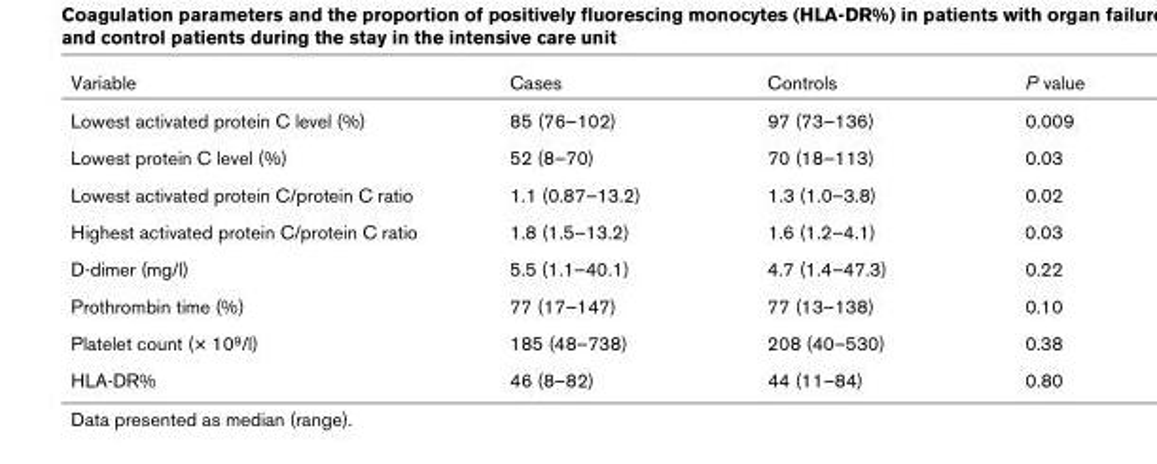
<table><thead><tr><td>Variable</td><td>Cases</td><td>Controls</td><td>P value</td></tr></thead><tbody><tr><td>Lowest activated protein C level (%)</td><td>85 (76–102)</td><td>97 (73–136)</td><td>0.009</td></tr><tr><td>Lowest protein C level (%)</td><td>52 (8–70)</td><td>70 (18–113)</td><td>0.03</td></tr><tr><td>Lowest activated protein C/protein C ratio</td><td>1.1 (0.87–13.2)</td><td>1.3 (1.0–3.8)</td><td>0.02</td></tr><tr><td>Highest activated protein C/protein C ratio</td><td>1.8 (1.5–13.2)</td><td>1.6 (1.2–4.1)</td><td>0.03</td></tr><tr><td>D-dimer (mg/l)</td><td>5.5 (1.1–40.1)</td><td>4.7 (1.4–47.3)</td><td>0.22</td></tr><tr><td>Prothrombin time (%)</td><td>77 (17–147)</td><td>77 (13–138)</td><td>0.10</td></tr><tr><td>Platelet count (× 109/l)</td><td>185 (48–738)</td><td>208 (40–530)</td><td>0.38</td></tr><tr><td>HLA-DR%</td><td>46 (8–82)</td><td>44 (11–84)</td><td>0.80</td></tr></tbody></table>